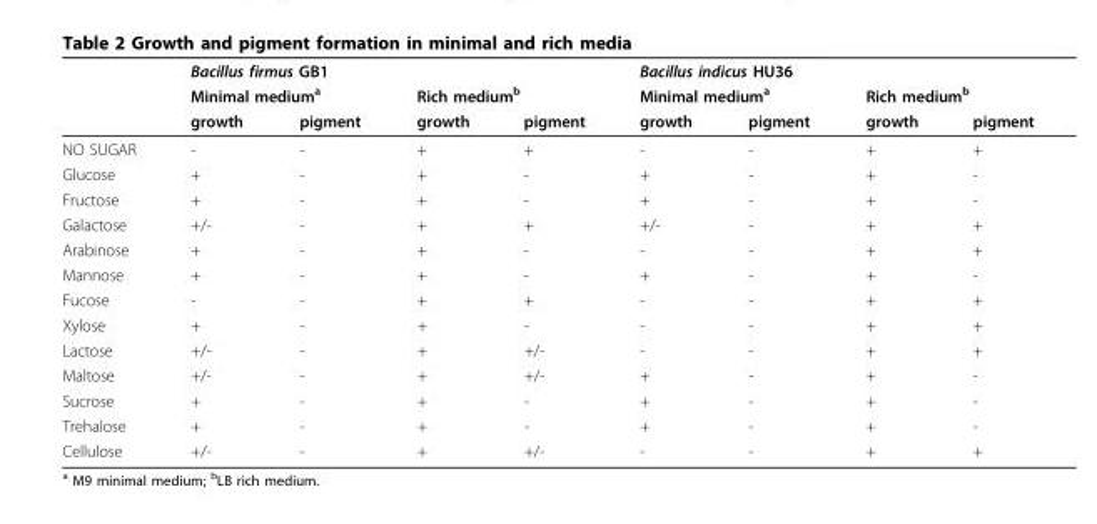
<table><thead><tr><td rowspan="3"></td><td colspan="4">Bacillus firmus GB1</td><td colspan="4">Bacillus indicus HU36</td></tr><tr><td colspan="2">Minimal medium<sup>a</sup></td><td colspan="2">Rich medium<sup>b</sup></td><td colspan="2">Minimal medium<sup>a</sup></td><td colspan="2">Rich medium<sup>b</sup></td></tr><tr><td>growth</td><td>pigment</td><td>growth</td><td>pigment</td><td>growth</td><td>pigment</td><td>growth</td><td>pigment</td></tr></thead><tbody><tr><td>NO SUGAR</td><td>-</td><td>-</td><td>+</td><td>+</td><td>-</td><td>-</td><td>+</td><td>+</td></tr><tr><td>Glucose</td><td>+</td><td>-</td><td>+</td><td>-</td><td>+</td><td>-</td><td>+</td><td>-</td></tr><tr><td>Fructose</td><td>+</td><td>-</td><td>+</td><td>-</td><td>+</td><td>-</td><td>+</td><td>-</td></tr><tr><td>Galactose</td><td>+/-</td><td>-</td><td>+</td><td>+</td><td>+/-</td><td>-</td><td>+</td><td>+</td></tr><tr><td>Arabinose</td><td>+</td><td>-</td><td>+</td><td>-</td><td>-</td><td>-</td><td>+</td><td>+</td></tr><tr><td>Mannose</td><td>+</td><td>-</td><td>+</td><td>-</td><td>+</td><td>-</td><td>+</td><td>-</td></tr><tr><td>Fucose</td><td>-</td><td>-</td><td>+</td><td>+</td><td>-</td><td>-</td><td>+</td><td>+</td></tr><tr><td>Xylose</td><td>+</td><td>-</td><td>+</td><td>-</td><td>-</td><td>-</td><td>+</td><td>+</td></tr><tr><td>Lactose</td><td>+/-</td><td>-</td><td>+</td><td>+/-</td><td>-</td><td>-</td><td>+</td><td>+</td></tr><tr><td>Maltose</td><td>+/-</td><td>-</td><td>+</td><td>+/-</td><td>+</td><td>-</td><td>+</td><td>-</td></tr><tr><td>Sucrose</td><td>+</td><td>-</td><td>+</td><td>-</td><td>+</td><td>-</td><td>+</td><td>-</td></tr><tr><td>Trehalose</td><td>+</td><td>-</td><td>+</td><td>-</td><td>+</td><td>-</td><td>+</td><td>-</td></tr><tr><td>Cellulose</td><td>+/-</td><td>-</td><td>+</td><td>+/-</td><td>-</td><td>-</td><td>+</td><td>+</td></tr></tbody></table>